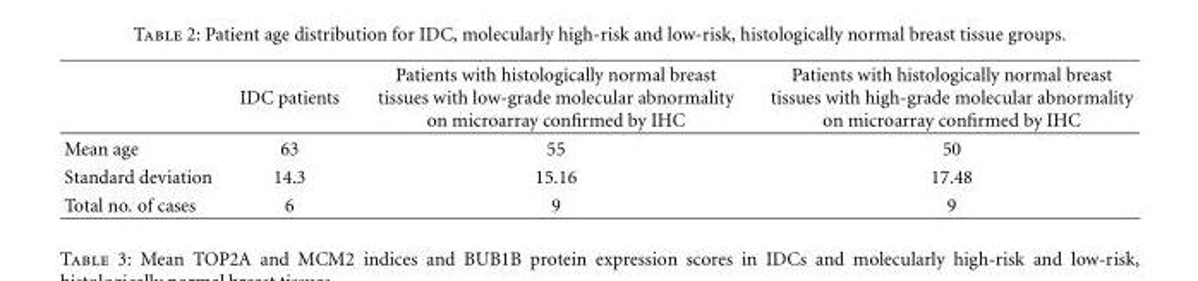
<table><thead><tr><td></td><td>IDC patients</td><td>Patients with histologically normal breast tissues with low-grade molecular abnormality on microarray confirmed by IHC</td><td>Patients with histologically normal breast tissues with high-grade molecular abnormality on microarray confirmed by IHC</td></tr></thead><tbody><tr><td>Mean age</td><td>63</td><td>55</td><td>50</td></tr><tr><td>Standard deviation</td><td>14.3</td><td>15.16</td><td>17.48</td></tr><tr><td>Total no. of cases</td><td>6</td><td>9</td><td>9</td></tr></tbody></table>